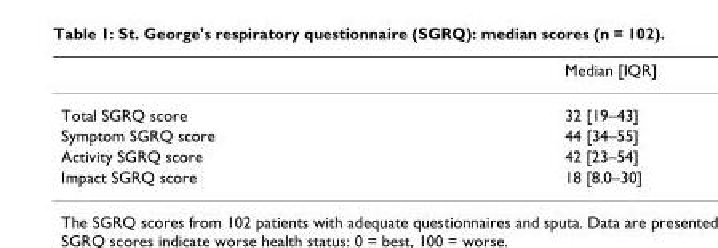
<table><thead><tr><td></td><td>Median [IQR]</td></tr></thead><tbody><tr><td>Total SGRQ score</td><td>32 [19–43]</td></tr><tr><td>Symptom SGRQ score</td><td>44 [34–55]</td></tr><tr><td>Activity SGRQ score</td><td>42 [23–54]</td></tr><tr><td>Impact SGRQ score</td><td>18 [8.0–30]</td></tr></tbody></table>